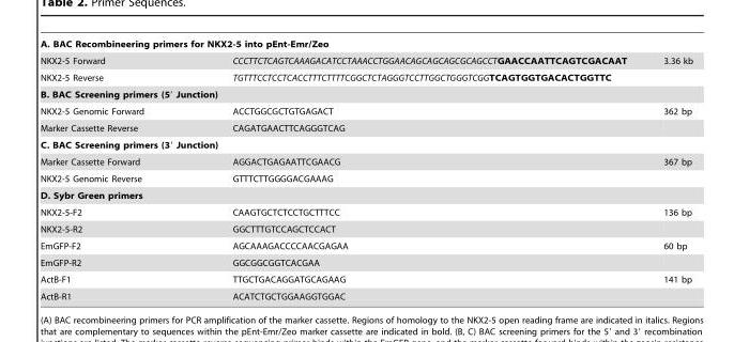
<table><tbody><tr><td colspan="3">A. BAC Recombineering primers for NKX2-5 into pEnt-Emr/Zeo</td></tr><tr><td>NKX2-5 Forward</td><td>CCCTTCTCAGTCAAAGACATCCTAAACCTGGAACAGCAGCAGCGCAGCCTGAACCAATTCAGTCGACAAT</td><td>3.36 kb</td></tr><tr><td>NKX2-5 Reverse</td><td>TGTTTCCTCCTCACCTTTCTTTTCGGCTCTAGGGTCCTTGGCTGGGTCGGTCAGTGGTGACACTGGTTC</td><td></td></tr><tr><td colspan="3">B. BAC Screening primers (5′ Junction)</td></tr><tr><td>NKX2-5 Genomic Forward</td><td>ACCTGGCGCTGTGAGACT</td><td>362 bp</td></tr><tr><td>Marker Cassette Reverse</td><td>CAGATGAACTTCAGGGTCAG</td><td></td></tr><tr><td colspan="3">C. BAC Screening primers (3′ Junction)</td></tr><tr><td>Marker Cassette Forward</td><td>AGGACTGAGAATTCGAACG</td><td>367 bp</td></tr><tr><td>NKX2-5 Genomic Reverse</td><td>GTTTCTTGGGGACGAAAG</td><td></td></tr><tr><td colspan="3">D. Sybr Green primers</td></tr><tr><td>NKX2-5-F2</td><td>CAAGTGCTCTCCTGCTTTCC</td><td>136 bp</td></tr><tr><td>NKX2-5-R2</td><td>GGCTTTGTCCAGCTCCACT</td><td></td></tr><tr><td>EmGFP-F2</td><td>AGCAAAGACCCCAACGAGAA</td><td>60 bp</td></tr><tr><td>EmGFP-R2</td><td>GGCGGCGGTCACGAA</td><td></td></tr><tr><td>ActB-F1</td><td>TTGCTGACAGGATGCAGAAG</td><td>141 bp</td></tr><tr><td>ActB-R1</td><td>ACATCTGCTGGAAGGTGGAC</td><td></td></tr></tbody></table>